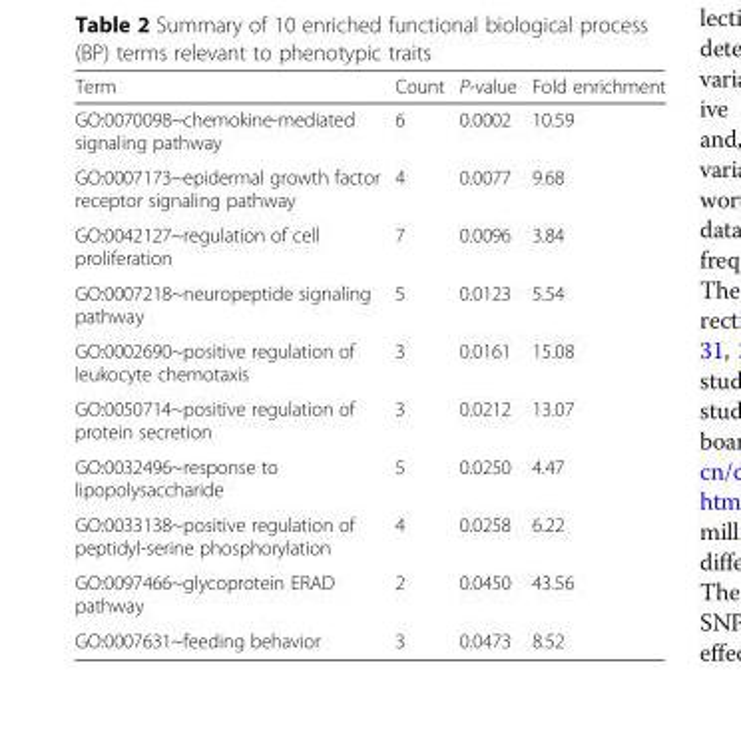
<table><thead><tr><td>Term</td><td>Count</td><td>P-value</td><td>Fold enrichment</td></tr></thead><tbody><tr><td>GO:0070098~chemokine-mediated signaling pathway</td><td>6</td><td>0.0002</td><td>10.59</td></tr><tr><td>GO:0007173~epidermal growth factor receptor signaling pathway</td><td>4</td><td>0.0077</td><td>9.68</td></tr><tr><td>GO:0042127~regulation of cell proliferation</td><td>7</td><td>0.0096</td><td>3.84</td></tr><tr><td>GO:0007218~neuropeptide signaling pathway</td><td>5</td><td>0.0123</td><td>5.54</td></tr><tr><td>GO:0002690~positive regulation of leukocyte chemotaxis</td><td>3</td><td>0.0161</td><td>15.08</td></tr><tr><td>GO:0050714~positive regulation of protein secretion</td><td>3</td><td>0.0212</td><td>13.07</td></tr><tr><td>GO:0032496~response to lipopolysaccharide</td><td>5</td><td>0.0250</td><td>4.47</td></tr><tr><td>GO:0033138~positive regulation of peptidyl-serine phosphorylation</td><td>4</td><td>0.0258</td><td>6.22</td></tr><tr><td>GO:0097466~glycoprotein ERAD pathway</td><td>2</td><td>0.0450</td><td>43.56</td></tr><tr><td>GO:0007631~feeding behavior</td><td>3</td><td>0.0473</td><td>8.52</td></tr></tbody></table>